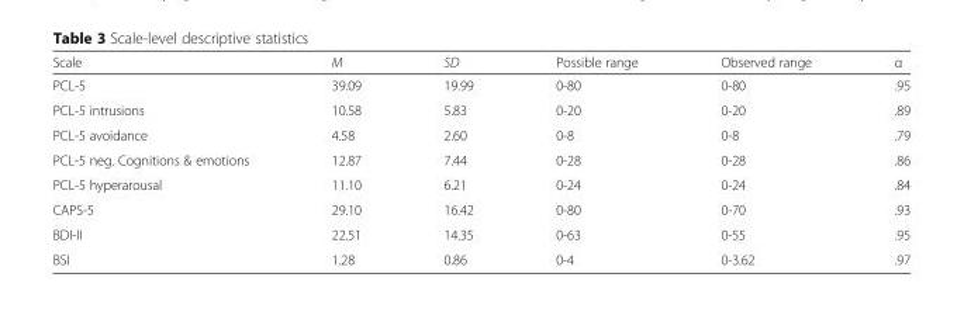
<table><thead><tr><td>Scale</td><td>M</td><td>SD</td><td>Possible range</td><td>Observed range</td><td>α</td></tr></thead><tbody><tr><td>PCL-5</td><td>39.09</td><td>19.99</td><td>0-80</td><td>0-80</td><td>.95</td></tr><tr><td>PCL-5 intrusions</td><td>10.58</td><td>5.83</td><td>0-20</td><td>0-20</td><td>.89</td></tr><tr><td>PCL-5 avoidance</td><td>4.58</td><td>2.60</td><td>0-8</td><td>0-8</td><td>.79</td></tr><tr><td>PCL-5 neg. Cognitions &amp; emotions</td><td>12.87</td><td>7.44</td><td>0-28</td><td>0-28</td><td>.86</td></tr><tr><td>PCL-5 hyperarousal</td><td>11.10</td><td>6.21</td><td>0-24</td><td>0-24</td><td>.84</td></tr><tr><td>CAPS-5</td><td>29.10</td><td>16.42</td><td>0-80</td><td>0-70</td><td>.93</td></tr><tr><td>BDI-II</td><td>22.51</td><td>14.35</td><td>0-63</td><td>0-55</td><td>.95</td></tr><tr><td>BSI</td><td>1.28</td><td>0.86</td><td>0-4</td><td>0-3.62</td><td>.97</td></tr></tbody></table>